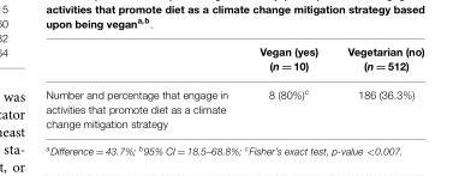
<table><thead><tr><td></td><td>Vegan (yes) (n = 10)</td><td>Vegetarian (no) (n = 512)</td></tr></thead><tbody><tr><td>Number and percentage that engage in activities that promote diet as a climate change mitigation strategy</td><td>8 (80%)<sup>c</sup></td><td>186 (36.3%)</td></tr></tbody></table>